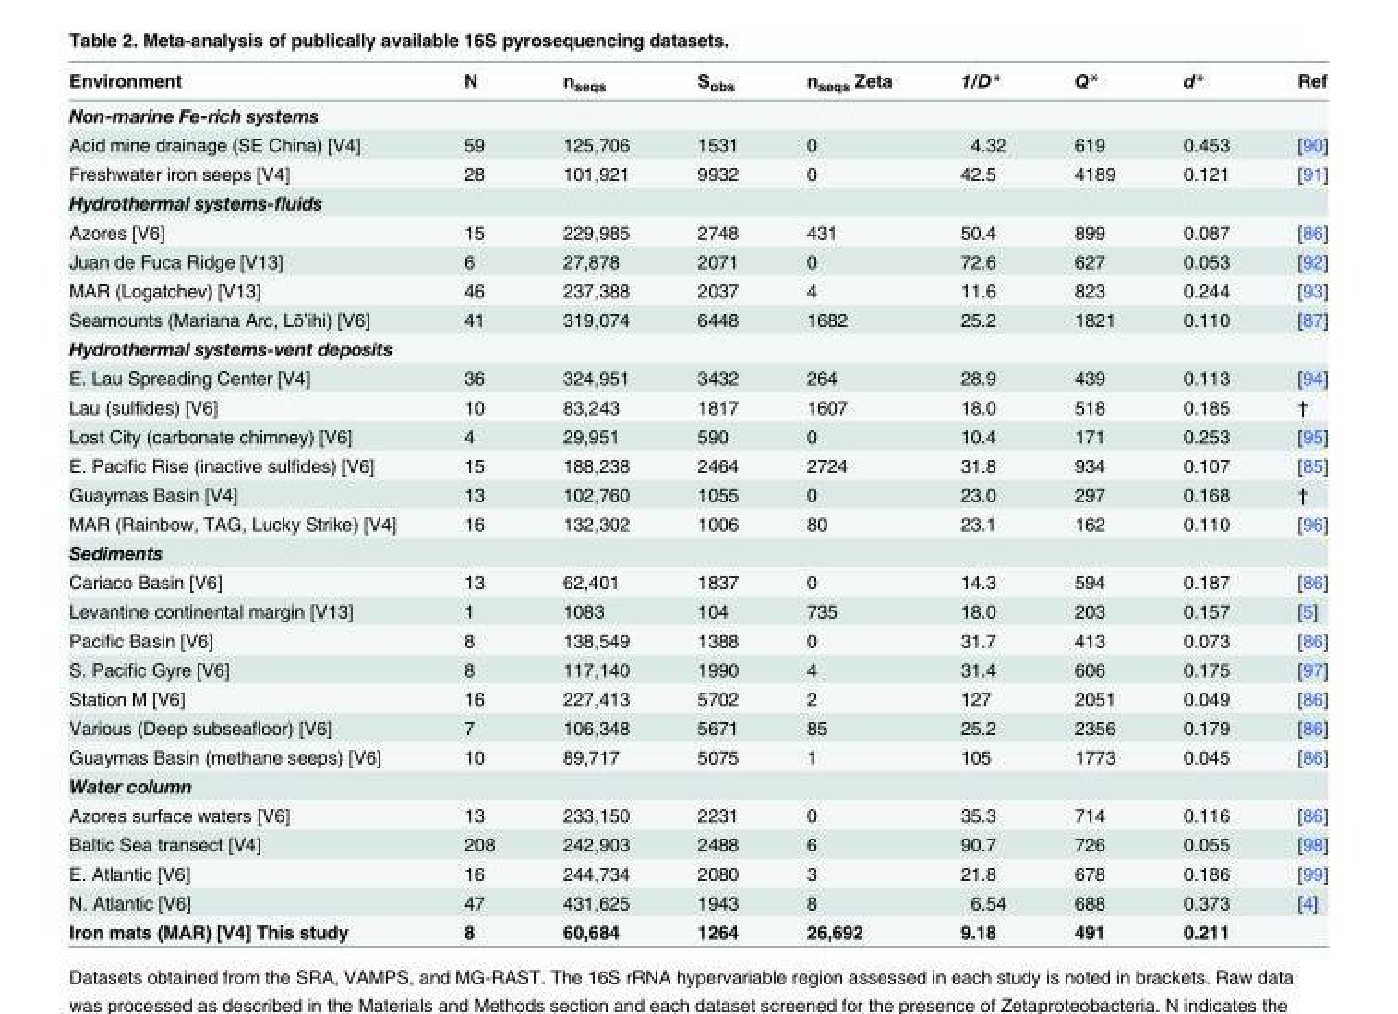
<table><thead><tr><td>Environment</td><td>N</td><td>n<sub>seqs</sub></td><td>S<sub>obs</sub></td><td>n<sub>seqs</sub> Zeta</td><td>1/D*</td><td>Q*</td><td>d*</td><td>Ref</td></tr></thead><tbody><tr><td colspan="9">Non-marine Fe-rich systems</td></tr><tr><td>Acid mine drainage (SE China) [V4]</td><td>59</td><td>125,706</td><td>1531</td><td>0</td><td>4.32</td><td>619</td><td>0.453</td><td>[90]</td></tr><tr><td>Freshwater iron seeps [V4]</td><td>28</td><td>101,921</td><td>9932</td><td>0</td><td>42.5</td><td>4189</td><td>0.121</td><td>[91]</td></tr><tr><td colspan="9">Hydrothermal systems-fluids</td></tr><tr><td>Azores [V6]</td><td>15</td><td>229,985</td><td>2748</td><td>431</td><td>50.4</td><td>899</td><td>0.087</td><td>[86]</td></tr><tr><td>Juan de Fuca Ridge [V13]</td><td>6</td><td>27,878</td><td>2071</td><td>0</td><td>72.6</td><td>627</td><td>0.053</td><td>[92]</td></tr><tr><td>MAR (Logatchev) [V13]</td><td>46</td><td>237,388</td><td>2037</td><td>4</td><td>11.6</td><td>823</td><td>0.244</td><td>[93]</td></tr><tr><td>Seamounts (Mariana Arc, Lō’ihi) [V6]</td><td>41</td><td>319,074</td><td>6448</td><td>1682</td><td>25.2</td><td>1821</td><td>0.110</td><td>[87]</td></tr><tr><td colspan="9">Hydrothermal systems-vent deposits</td></tr><tr><td>E. Lau Spreading Center [V4]</td><td>36</td><td>324,951</td><td>3432</td><td>264</td><td>28.9</td><td>439</td><td>0.113</td><td>[94]</td></tr><tr><td>Lau (sulfides) [V6]</td><td>10</td><td>83,243</td><td>1817</td><td>1607</td><td>18.0</td><td>518</td><td>0.185</td><td>†</td></tr><tr><td>Lost City (carbonate chimney) [V6]</td><td>4</td><td>29,951</td><td>590</td><td>0</td><td>10.4</td><td>171</td><td>0.253</td><td>[95]</td></tr><tr><td>E. Pacific Rise (inactive sulfides) [V6]</td><td>15</td><td>188,238</td><td>2464</td><td>2724</td><td>31.8</td><td>934</td><td>0.107</td><td>[85]</td></tr><tr><td>Guaymas Basin [V4]</td><td>13</td><td>102,760</td><td>1055</td><td>0</td><td>23.0</td><td>297</td><td>0.168</td><td>†</td></tr><tr><td>MAR (Rainbow, TAG, Lucky Strike) [V4]</td><td>16</td><td>132,302</td><td>1006</td><td>80</td><td>23.1</td><td>162</td><td>0.110</td><td>[96]</td></tr><tr><td colspan="9">Sediments</td></tr><tr><td>Cariaco Basin [V6]</td><td>13</td><td>62,401</td><td>1837</td><td>0</td><td>14.3</td><td>594</td><td>0.187</td><td>[86]</td></tr><tr><td>Levantine continental margin [V13]</td><td>1</td><td>1083</td><td>104</td><td>735</td><td>18.0</td><td>203</td><td>0.157</td><td>[5]</td></tr><tr><td>Pacific Basin [V6]</td><td>8</td><td>138,549</td><td>1388</td><td>0</td><td>31.7</td><td>413</td><td>0.073</td><td>[86]</td></tr><tr><td>S. Pacific Gyre [V6]</td><td>8</td><td>117,140</td><td>1990</td><td>4</td><td>31.4</td><td>606</td><td>0.175</td><td>[97]</td></tr><tr><td>Station M [V6]</td><td>16</td><td>227,413</td><td>5702</td><td>2</td><td>127</td><td>2051</td><td>0.049</td><td>[86]</td></tr><tr><td>Various (Deep subseafloor) [V6]</td><td>7</td><td>106,348</td><td>5671</td><td>85</td><td>25.2</td><td>2356</td><td>0.179</td><td>[86]</td></tr><tr><td>Guaymas Basin (methane seeps) [V6]</td><td>10</td><td>89,717</td><td>5075</td><td>1</td><td>105</td><td>1773</td><td>0.045</td><td>[86]</td></tr><tr><td colspan="9">Water column</td></tr><tr><td>Azores surface waters [V6]</td><td>13</td><td>233,150</td><td>2231</td><td>0</td><td>35.3</td><td>714</td><td>0.116</td><td>[86]</td></tr><tr><td>Baltic Sea transect [V4]</td><td>208</td><td>242,903</td><td>2488</td><td>6</td><td>90.7</td><td>726</td><td>0.055</td><td>[98]</td></tr><tr><td>E. Atlantic [V6]</td><td>16</td><td>244,734</td><td>2080</td><td>3</td><td>21.8</td><td>678</td><td>0.186</td><td>[99]</td></tr><tr><td>N. Atlantic [V6]</td><td>47</td><td>431,625</td><td>1943</td><td>8</td><td>6.54</td><td>688</td><td>0.373</td><td>[4]</td></tr><tr><td>Iron mats (MAR) [V4] This study</td><td>8</td><td>60,684</td><td>1264</td><td>26,692</td><td>9.18</td><td>491</td><td>0.211</td><td></td></tr></tbody></table>